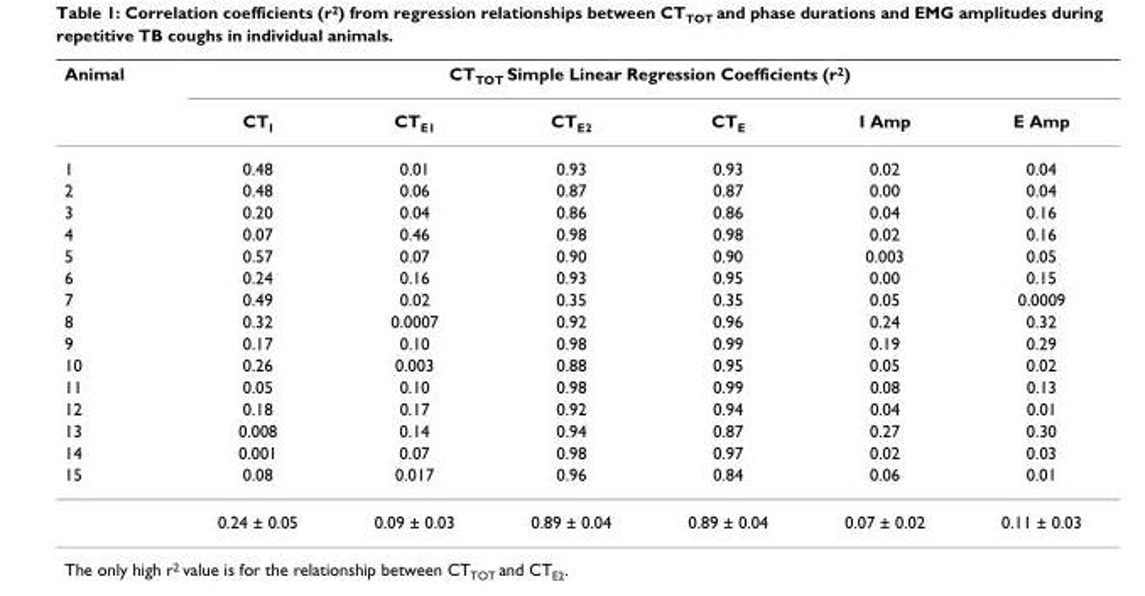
<table><thead><tr><td rowspan="2">Animal</td><td colspan="6">CT<sub>TOT</sub> Simple Linear Regression Coefficients (r<sup>2</sup>)</td></tr><tr><td>CT<sub>I</sub></td><td>CT<sub>E1</sub></td><td>CT<sub>E2</sub></td><td>CT<sub>E</sub></td><td>I Amp</td><td>E Amp</td></tr></thead><tbody><tr><td>1</td><td>0.48</td><td>0.01</td><td>0.93</td><td>0.93</td><td>0.02</td><td>0.04</td></tr><tr><td>2</td><td>0.48</td><td>0.06</td><td>0.87</td><td>0.87</td><td>0.00</td><td>0.04</td></tr><tr><td>3</td><td>0.20</td><td>0.04</td><td>0.86</td><td>0.86</td><td>0.04</td><td>0.16</td></tr><tr><td>4</td><td>0.07</td><td>0.46</td><td>0.98</td><td>0.98</td><td>0.02</td><td>0.16</td></tr><tr><td>5</td><td>0.57</td><td>0.07</td><td>0.90</td><td>0.90</td><td>0.003</td><td>0.05</td></tr><tr><td>6</td><td>0.24</td><td>0.16</td><td>0.93</td><td>0.95</td><td>0.00</td><td>0.15</td></tr><tr><td>7</td><td>0.49</td><td>0.02</td><td>0.35</td><td>0.35</td><td>0.05</td><td>0.0009</td></tr><tr><td>8</td><td>0.32</td><td>0.0007</td><td>0.92</td><td>0.96</td><td>0.24</td><td>0.32</td></tr><tr><td>9</td><td>0.17</td><td>0.10</td><td>0.98</td><td>0.99</td><td>0.19</td><td>0.29</td></tr><tr><td>10</td><td>0.26</td><td>0.003</td><td>0.88</td><td>0.95</td><td>0.05</td><td>0.02</td></tr><tr><td>11</td><td>0.05</td><td>0.10</td><td>0.98</td><td>0.99</td><td>0.08</td><td>0.13</td></tr><tr><td>12</td><td>0.18</td><td>0.17</td><td>0.92</td><td>0.94</td><td>0.04</td><td>0.01</td></tr><tr><td>13</td><td>0.008</td><td>0.14</td><td>0.94</td><td>0.87</td><td>0.27</td><td>0.30</td></tr><tr><td>14</td><td>0.001</td><td>0.07</td><td>0.98</td><td>0.97</td><td>0.02</td><td>0.03</td></tr><tr><td rowspan="2">15</td><td>0.08</td><td>0.017</td><td>0.96</td><td>0.84</td><td>0.06</td><td>0.01</td></tr><tr><td>0.24 ± 0.05</td><td>0.09 ± 0.03</td><td>0.89 ± 0.04</td><td>0.89 ± 0.04</td><td>0.07 ± 0.02</td><td>0.11 ± 0.03</td></tr></tbody></table>